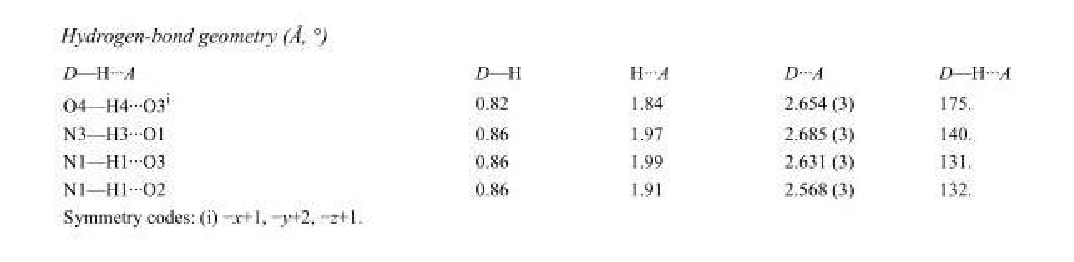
<table><tbody><tr><td>D—H···A</td><td>D—H</td><td>H···A</td><td>D···A</td><td>D—H···A</td></tr><tr><td>O4—H4···O3<sup>i</sup></td><td>0.82</td><td>1.84</td><td>2.654 (3)</td><td>175.</td></tr><tr><td>N3—H3···O1</td><td>0.86</td><td>1.97</td><td>2.685 (3)</td><td>140.</td></tr><tr><td>N1—H1···O3</td><td>0.86</td><td>1.99</td><td>2.631 (3)</td><td>131.</td></tr><tr><td>N1—H1···O2</td><td>0.86</td><td>1.91</td><td>2.568 (3)</td><td>132.</td></tr></tbody></table>